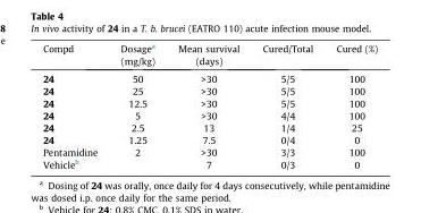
<table><thead><tr><td>Compd</td><td>Dosage<sup>a</sup> (mg/kg)</td><td>Mean survival (days)</td><td>Cured/Total</td><td>Cured (%)</td></tr></thead><tbody><tr><td>24</td><td>50</td><td>&gt;30</td><td>5/5</td><td>100</td></tr><tr><td>24</td><td>25</td><td>&gt;30</td><td>5/5</td><td>100</td></tr><tr><td>24</td><td>12.5</td><td>&gt;30</td><td>5/5</td><td>100</td></tr><tr><td>24</td><td>5</td><td>&gt;30</td><td>4/4</td><td>100</td></tr><tr><td>24</td><td>2.5</td><td>13</td><td>1/4</td><td>25</td></tr><tr><td>24</td><td>1.25</td><td>7.5</td><td>0/4</td><td>0</td></tr><tr><td>Pentamidine</td><td>2</td><td>&gt;30</td><td>3/3</td><td>100</td></tr><tr><td>Vehicle<sup>b</sup></td><td></td><td>7</td><td>0/3</td><td>0</td></tr></tbody></table>